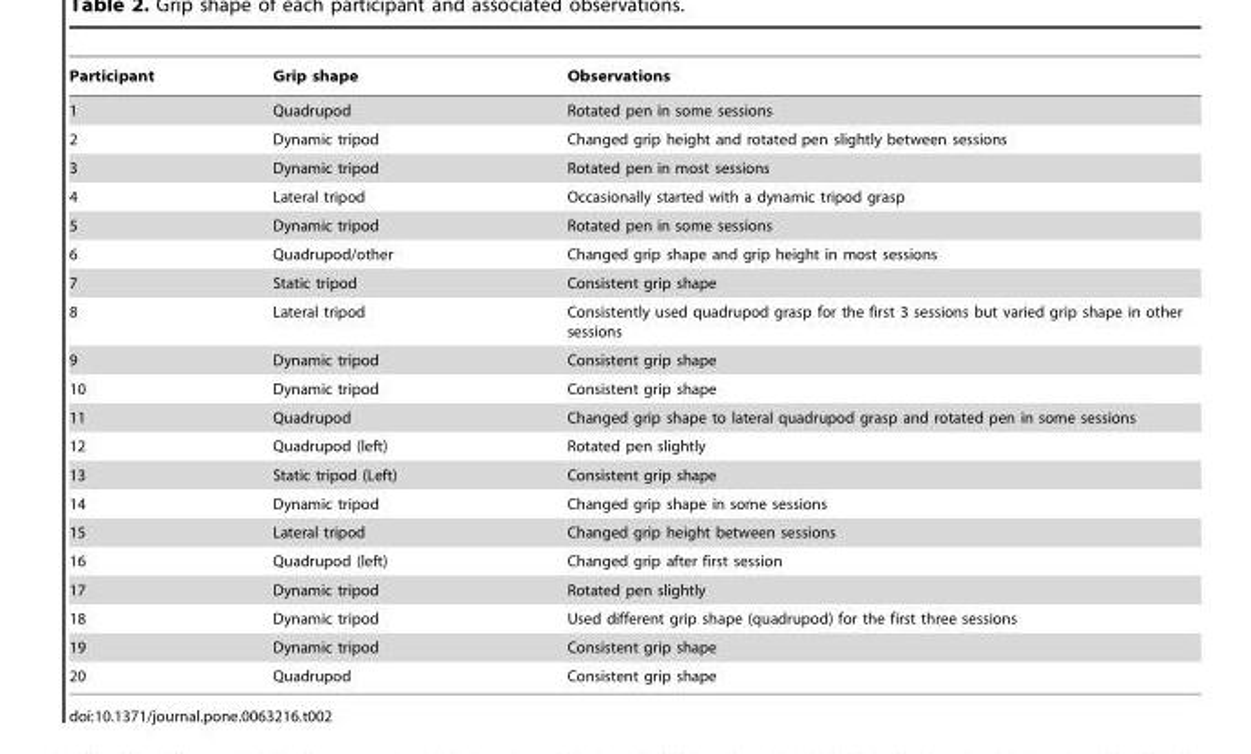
<table><thead><tr><td>Participant</td><td>Grip shape</td><td>Observations</td></tr></thead><tbody><tr><td>1</td><td>Quadrupod</td><td>Rotated pen in some sessions</td></tr><tr><td>2</td><td>Dynamic tripod</td><td>Changed grip height and rotated pen slightly between sessions</td></tr><tr><td>3</td><td>Dynamic tripod</td><td>Rotated pen in most sessions</td></tr><tr><td>4</td><td>Lateral tripod</td><td>Occasionally started with a dynamic tripod grasp</td></tr><tr><td>5</td><td>Dynamic tripod</td><td>Rotated pen in some sessions</td></tr><tr><td>6</td><td>Quadrupod/other</td><td>Changed grip shape and grip height in most sessions</td></tr><tr><td>7</td><td>Static tripod</td><td>Consistent grip shape</td></tr><tr><td>8</td><td>Lateral tripod</td><td>Consistently used quadrupod grasp for the first 3 sessions but varied grip shape in other sessions</td></tr><tr><td>9</td><td>Dynamic tripod</td><td>Consistent grip shape</td></tr><tr><td>10</td><td>Dynamic tripod</td><td>Consistent grip shape</td></tr><tr><td>11</td><td>Quadrupod</td><td>Changed grip shape to lateral quadrupod grasp and rotated pen in some sessions</td></tr><tr><td>12</td><td>Quadrupod (left)</td><td>Rotated pen slightly</td></tr><tr><td>13</td><td>Static tripod (Left)</td><td>Consistent grip shape</td></tr><tr><td>14</td><td>Dynamic tripod</td><td>Changed grip shape in some sessions</td></tr><tr><td>15</td><td>Lateral tripod</td><td>Changed grip height between sessions</td></tr><tr><td>16</td><td>Quadrupod (left)</td><td>Changed grip after first session</td></tr><tr><td>17</td><td>Dynamic tripod</td><td>Rotated pen slightly</td></tr><tr><td>18</td><td>Dynamic tripod</td><td>Used different grip shape (quadrupod) for the first three sessions</td></tr><tr><td>19</td><td>Dynamic tripod</td><td>Consistent grip shape</td></tr><tr><td>20</td><td>Quadrupod</td><td>Consistent grip shape</td></tr></tbody></table>